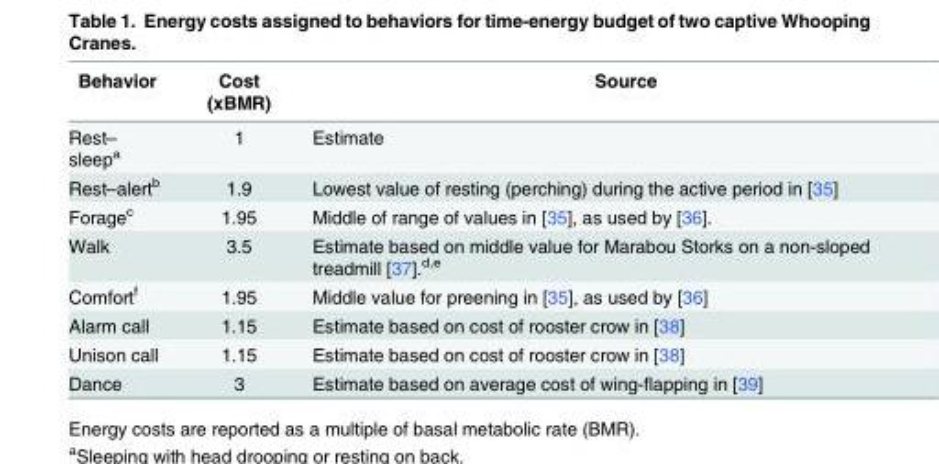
<table><thead><tr><td>Behavior</td><td>Cost (xBMR)</td><td>Source</td></tr></thead><tbody><tr><td>Rest– sleep<sup>a</sup></td><td>1</td><td>Estimate</td></tr><tr><td>Rest–alert<sup>b</sup></td><td>1.9</td><td>Lowest value of resting (perching) during the active period in [35]</td></tr><tr><td>Forage<sup>c</sup></td><td>1.95</td><td>Middle of range of values in [35], as used by [36].</td></tr><tr><td>Walk</td><td>3.5</td><td>Estimate based on middle value for Marabou Storks on a non-sloped treadmill [37].<sup>d,e</sup></td></tr><tr><td>Comfort<sup>f</sup></td><td>1.95</td><td>Middle value for preening in [35], as used by [36]</td></tr><tr><td>Alarm call</td><td>1.15</td><td>Estimate based on cost of rooster crow in [38]</td></tr><tr><td>Unison call</td><td>1.15</td><td>Estimate based on cost of rooster crow in [38]</td></tr><tr><td>Dance</td><td>3</td><td>Estimate based on average cost of wing-flapping in [39]</td></tr></tbody></table>